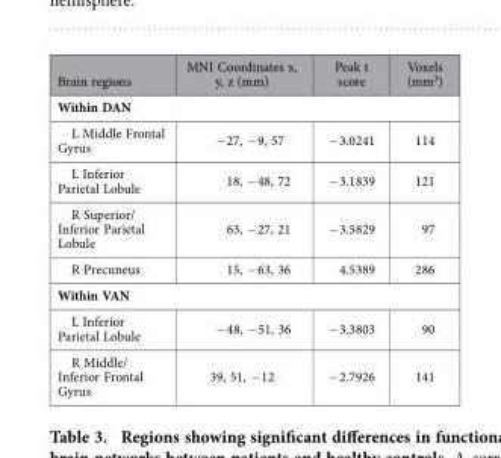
<table><thead><tr><td>Brain regions</td><td>MNI Coordinates x, y, z (mm)</td><td>Peak t score</td><td>Voxels (mm<sup>3</sup>)</td></tr></thead><tbody><tr><td colspan="4">Within DAN</td></tr><tr><td>L Middle Frontal Gyrus</td><td>− 27, − 9, 57</td><td>− 3.0241</td><td>114</td></tr><tr><td>L Inferior Parietal Lobule</td><td>18, − 48, 72</td><td>− 3.1839</td><td>121</td></tr><tr><td>R Superior/ Inferior Parietal Lobule</td><td>63, − 27, 21</td><td>− 3.5829</td><td>97</td></tr><tr><td>R Precuneus</td><td>15, − 63, 36</td><td>4.5389</td><td>286</td></tr><tr><td colspan="4">Within VAN</td></tr><tr><td>L Inferior Parietal Lobule</td><td>− 48, − 51, 36</td><td>− 3.3803</td><td>90</td></tr><tr><td>R Middle/ Inferior Frontal Gyrus</td><td>39, 51, − 12</td><td>− 2.7926</td><td>141</td></tr></tbody></table>